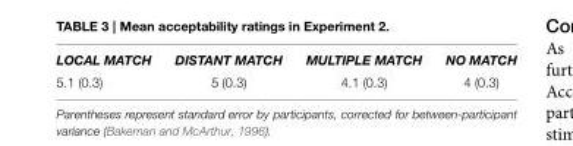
<table><tbody><tr><td>LOCAL MATCH</td><td>DISTANT MATCH</td><td>MULTIPLE MATCH</td><td>NO MATCH</td></tr><tr><td>5.1 (0.3)</td><td>5 (0.3)</td><td>4.1 (0.3)</td><td>4 (0.3)</td></tr></tbody></table>